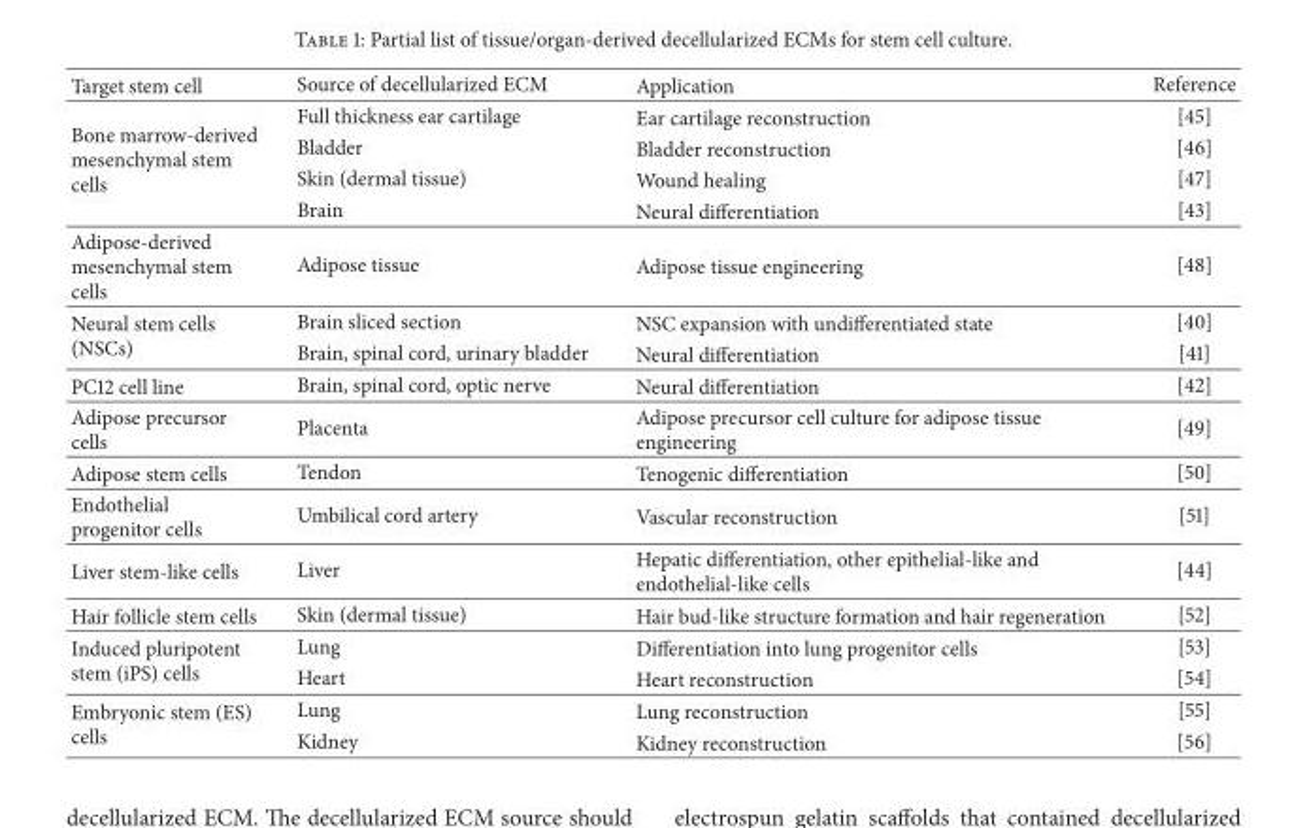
<table><thead><tr><td>Target stem cell</td><td>Source of decellularized ECM</td><td>Application</td><td>Reference</td></tr></thead><tbody><tr><td rowspan="4">Bone marrow-derived mesenchymal stem cells</td><td>Full thickness ear cartilage</td><td>Ear cartilage reconstruction</td><td>[45]</td></tr><tr><td>Bladder</td><td>Bladder reconstruction</td><td>[46]</td></tr><tr><td>Skin (dermal tissue)</td><td>Wound healing</td><td>[47]</td></tr><tr><td>Brain</td><td>Neural differentiation</td><td>[43]</td></tr><tr><td>Adipose-derived mesenchymal stem cells</td><td>Adipose tissue</td><td>Adipose tissue engineering</td><td>[48]</td></tr><tr><td rowspan="2">Neural stem cells (NSCs)</td><td>Brain sliced section</td><td>NSC expansion with undifferentiated state</td><td>[40]</td></tr><tr><td>Brain, spinal cord, urinary bladder</td><td>Neural differentiation</td><td>[41]</td></tr><tr><td>PC12 cell line</td><td>Brain, spinal cord, optic nerve</td><td>Neural differentiation</td><td>[42]</td></tr><tr><td>Adipose precursor cells</td><td>Placenta</td><td>Adipose precursor cell culture for adipose tissue engineering</td><td>[49]</td></tr><tr><td>Adipose stem cells</td><td>Tendon</td><td>Tenogenic differentiation</td><td>[50]</td></tr><tr><td>Endothelial progenitor cells</td><td>Umbilical cord artery</td><td>Vascular reconstruction</td><td>[51]</td></tr><tr><td>Liver stem-like cells</td><td>Liver</td><td>Hepatic differentiation, other epithelial-like and endothelial-like cells</td><td>[44]</td></tr><tr><td>Hair follicle stem cells</td><td>Skin (dermal tissue)</td><td>Hair bud-like structure formation and hair regeneration</td><td>[52]</td></tr><tr><td rowspan="2">Induced pluripotent stem (iPS) cells</td><td>Lung</td><td>Differentiation into lung progenitor cells</td><td>[53]</td></tr><tr><td>Heart</td><td>Heart reconstruction</td><td>[54]</td></tr><tr><td rowspan="2">Embryonic stem (ES) cells</td><td>Lung</td><td>Lung reconstruction</td><td>[55]</td></tr><tr><td>Kidney</td><td>Kidney reconstruction</td><td>[56]</td></tr></tbody></table>